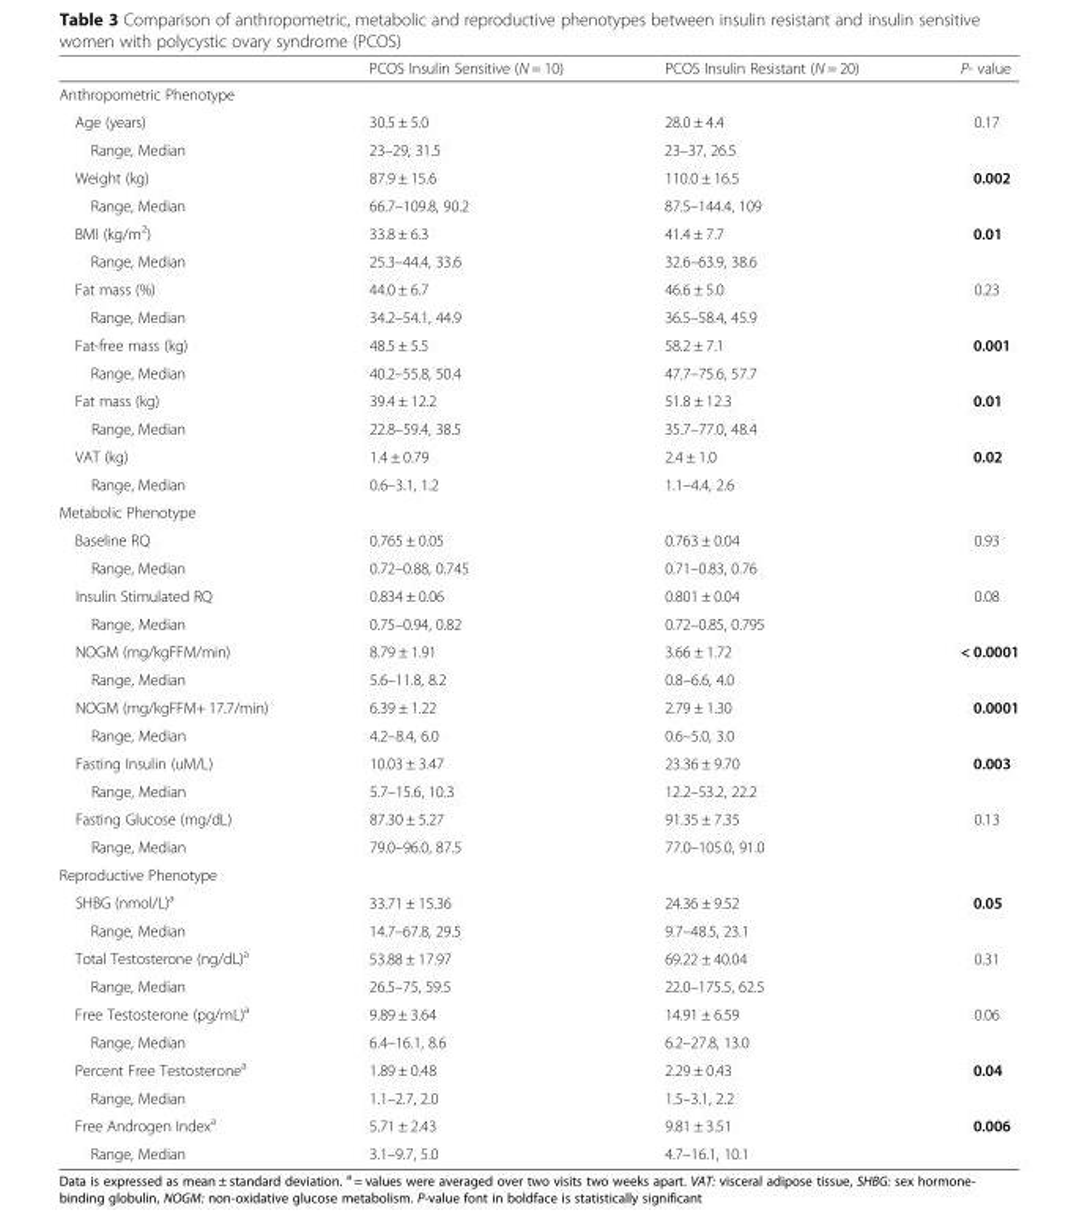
<table><thead><tr><td></td><td>PCOS Insulin Sensitive (N = 10)</td><td>PCOS Insulin Resistant (N = 20)</td><td>P- value</td></tr></thead><tbody><tr><td colspan="4">Anthropometric Phenotype</td></tr><tr><td>Age (years)</td><td>30.5 ± 5.0</td><td>28.0 ± 4.4</td><td>0.17</td></tr><tr><td>Range, Median</td><td>23–29, 31.5</td><td>23–37, 26.5</td><td></td></tr><tr><td>Weight (kg)</td><td>87.9 ± 15.6</td><td>110.0 ± 16.5</td><td>0.002</td></tr><tr><td>Range, Median</td><td>66.7–109.8, 90.2</td><td>87.5–144.4, 109</td><td></td></tr><tr><td>BMI (kg/m<sup>2</sup>)</td><td>33.8 ± 6.3</td><td>41.4 ± 7.7</td><td>0.01</td></tr><tr><td>Range, Median</td><td>25.3–44.4, 33.6</td><td>32.6–63.9, 38.6</td><td></td></tr><tr><td>Fat mass (%)</td><td>44.0 ± 6.7</td><td>46.6 ± 5.0</td><td>0.23</td></tr><tr><td>Range, Median</td><td>34.2–54.1, 44.9</td><td>36.5–58.4, 45.9</td><td></td></tr><tr><td>Fat-free mass (kg)</td><td>48.5 ± 5.5</td><td>58.2 ± 7.1</td><td>0.001</td></tr><tr><td>Range, Median</td><td>40.2–55.8, 50.4</td><td>47.7–75.6, 57.7</td><td></td></tr><tr><td>Fat mass (kg)</td><td>39.4 ± 12.2</td><td>51.8 ± 12.3</td><td>0.01</td></tr><tr><td>Range, Median</td><td>22.8–59.4, 38.5</td><td>35.7–77.0, 48.4</td><td></td></tr><tr><td>VAT (kg)</td><td>1.4 ± 0.79</td><td>2.4 ± 1.0</td><td>0.02</td></tr><tr><td>Range, Median</td><td>0.6–3.1, 1.2</td><td>1.1–4.4, 2.6</td><td></td></tr><tr><td colspan="4">Metabolic Phenotype</td></tr><tr><td>Baseline RQ</td><td>0.765 ± 0.05</td><td>0.763 ± 0.04</td><td>0.93</td></tr><tr><td>Range, Median</td><td>0.72–0.88, 0.745</td><td>0.71–0.83, 0.76</td><td></td></tr><tr><td>Insulin Stimulated RQ</td><td>0.834 ± 0.06</td><td>0.801 ± 0.04</td><td>0.08</td></tr><tr><td>Range, Median</td><td>0.75–0.94, 0.82</td><td>0.72–0.85, 0.795</td><td></td></tr><tr><td>NOGM (mg/kgFFM/min)</td><td>8.79 ± 1.91</td><td>3.66 ± 1.72</td><td>&lt; 0.0001</td></tr><tr><td>Range, Median</td><td>5.6–11.8, 8.2</td><td>0.8–6.6, 4.0</td><td></td></tr><tr><td>NOGM (mg/kgFFM+ 17.7/min)</td><td>6.39 ± 1.22</td><td>2.79 ± 1.30</td><td>0.0001</td></tr><tr><td>Range, Median</td><td>4.2–8.4, 6.0</td><td>0.6–5.0, 3.0</td><td></td></tr><tr><td>Fasting Insulin (uM/L)</td><td>10.03 ± 3.47</td><td>23.36 ± 9.70</td><td>0.003</td></tr><tr><td>Range, Median</td><td>5.7–15.6, 10.3</td><td>12.2–53.2, 22.2</td><td></td></tr><tr><td>Fasting Glucose (mg/dL)</td><td>87.30 ± 5.27</td><td>91.35 ± 7.35</td><td>0.13</td></tr><tr><td>Range, Median</td><td>79.0–96.0, 87.5</td><td>77.0–105.0, 91.0</td><td></td></tr><tr><td colspan="4">Reproductive Phenotype</td></tr><tr><td>SHBG (nmol/L)<sup>a</sup></td><td>33.71 ± 15.36</td><td>24.36 ± 9.52</td><td>0.05</td></tr><tr><td>Range, Median</td><td>14.7–67.8, 29.5</td><td>9.7–48.5, 23.1</td><td></td></tr><tr><td>Total Testosterone (ng/dL)<sup>a</sup></td><td>53.88 ± 17.97</td><td>69.22 ± 40.04</td><td>0.31</td></tr><tr><td>Range, Median</td><td>26.5–75, 59.5</td><td>22.0–175.5, 62.5</td><td></td></tr><tr><td>Free Testosterone (pg/mL)<sup>a</sup></td><td>9.89 ± 3.64</td><td>14.91 ± 6.59</td><td>0.06</td></tr><tr><td>Range, Median</td><td>6.4–16.1, 8.6</td><td>6.2–27.8, 13.0</td><td></td></tr><tr><td>Percent Free Testosterone<sup>a</sup></td><td>1.89 ± 0.48</td><td>2.29 ± 0.43</td><td>0.04</td></tr><tr><td>Range, Median</td><td>1.1–2.7, 2.0</td><td>1.5–3.1, 2.2</td><td></td></tr><tr><td>Free Androgen Index<sup>a</sup></td><td>5.71 ± 2.43</td><td>9.81 ± 3.51</td><td>0.006</td></tr><tr><td>Range, Median</td><td>3.1–9.7, 5.0</td><td>4.7–16.1, 10.1</td><td></td></tr></tbody></table>